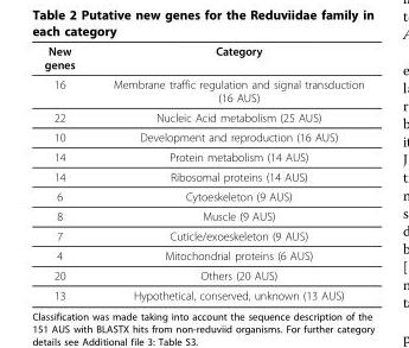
<table><thead><tr><td>New genes</td><td>Category</td></tr></thead><tbody><tr><td>16</td><td>Membrane traffic regulation and signal transduction (16 AUS)</td></tr><tr><td>22</td><td>Nucleic Acid metabolism (25 AUS)</td></tr><tr><td>10</td><td>Development and reproduction (16 AUS)</td></tr><tr><td>14</td><td>Protein metabolism (14 AUS)</td></tr><tr><td>14</td><td>Ribosomal proteins (14 AUS)</td></tr><tr><td>6</td><td>Cytoeskeleton (9 AUS)</td></tr><tr><td>8</td><td>Muscle (9 AUS)</td></tr><tr><td>7</td><td>Cuticle/exoeskeleton (9 AUS)</td></tr><tr><td>4</td><td>Mitochondrial proteins (6 AUS)</td></tr><tr><td>20</td><td>Others (20 AUS)</td></tr><tr><td>13</td><td>Hypothetical, conserved, unknown (13 AUS)</td></tr></tbody></table>